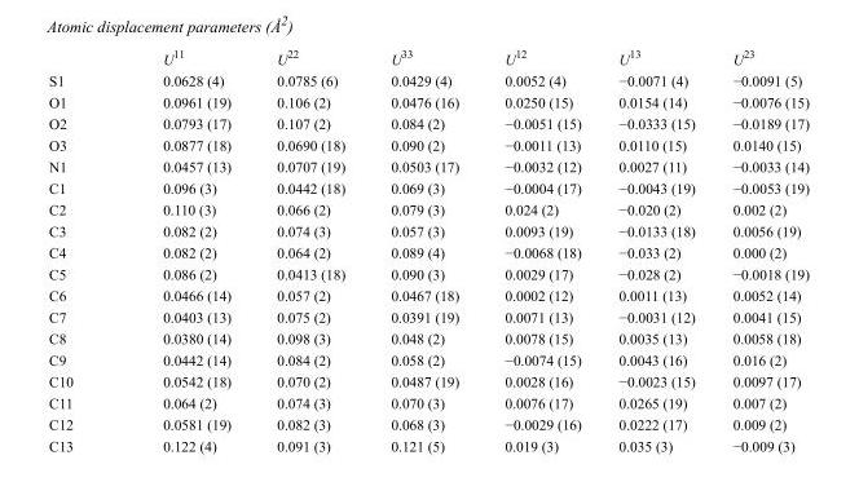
<table><thead><tr><td></td><td>U<sup>11</sup></td><td>U<sup>22</sup></td><td>U<sup>33</sup></td><td>U<sup>12</sup></td><td>U<sup>13</sup></td><td>U<sup>23</sup></td></tr></thead><tbody><tr><td>S1</td><td>0.0628 (4)</td><td>0.0785 (6)</td><td>0.0429 (4)</td><td>0.0052 (4)</td><td>−0.0071 (4)</td><td>−0.0091 (5)</td></tr><tr><td>O1</td><td>0.0961 (19)</td><td>0.106 (2)</td><td>0.0476 (16)</td><td>0.0250 (15)</td><td>0.0154 (14)</td><td>−0.0076 (15)</td></tr><tr><td>O2</td><td>0.0793 (17)</td><td>0.107 (2)</td><td>0.084 (2)</td><td>−0.0051 (15)</td><td>−0.0333 (15)</td><td>−0.0189 (17)</td></tr><tr><td>O3</td><td>0.0877 (18)</td><td>0.0690 (18)</td><td>0.090 (2)</td><td>−0.0011 (13)</td><td>0.0110 (15)</td><td>0.0140 (15)</td></tr><tr><td>N1</td><td>0.0457 (13)</td><td>0.0707 (19)</td><td>0.0503 (17)</td><td>−0.0032 (12)</td><td>0.0027 (11)</td><td>−0.0033 (14)</td></tr><tr><td>C1</td><td>0.096 (3)</td><td>0.0442 (18)</td><td>0.069 (3)</td><td>−0.0004 (17)</td><td>−0.0043 (19)</td><td>−0.0053 (19)</td></tr><tr><td>C2</td><td>0.110 (3)</td><td>0.066 (2)</td><td>0.079 (3)</td><td>0.024 (2)</td><td>−0.020 (2)</td><td>0.002 (2)</td></tr><tr><td>C3</td><td>0.082 (2)</td><td>0.074 (3)</td><td>0.057 (3)</td><td>0.0093 (19)</td><td>−0.0133 (18)</td><td>0.0056 (19)</td></tr><tr><td>C4</td><td>0.082 (2)</td><td>0.064 (2)</td><td>0.089 (4)</td><td>−0.0068 (18)</td><td>−0.033 (2)</td><td>0.000 (2)</td></tr><tr><td>C5</td><td>0.086 (2)</td><td>0.0413 (18)</td><td>0.090 (3)</td><td>0.0029 (17)</td><td>−0.028 (2)</td><td>−0.0018 (19)</td></tr><tr><td>C6</td><td>0.0466 (14)</td><td>0.057 (2)</td><td>0.0467 (18)</td><td>0.0002 (12)</td><td>0.0011 (13)</td><td>0.0052 (14)</td></tr><tr><td>C7</td><td>0.0403 (13)</td><td>0.075 (2)</td><td>0.0391 (19)</td><td>0.0071 (13)</td><td>−0.0031 (12)</td><td>0.0041 (15)</td></tr><tr><td>C8</td><td>0.0380 (14)</td><td>0.098 (3)</td><td>0.048 (2)</td><td>0.0078 (15)</td><td>0.0035 (13)</td><td>0.0058 (18)</td></tr><tr><td>C9</td><td>0.0442 (14)</td><td>0.084 (2)</td><td>0.058 (2)</td><td>−0.0074 (15)</td><td>0.0043 (16)</td><td>0.016 (2)</td></tr><tr><td>C10</td><td>0.0542 (18)</td><td>0.070 (2)</td><td>0.0487 (19)</td><td>0.0028 (16)</td><td>−0.0023 (15)</td><td>0.0097 (17)</td></tr><tr><td>C11</td><td>0.064 (2)</td><td>0.074 (3)</td><td>0.070 (3)</td><td>0.0076 (17)</td><td>0.0265 (19)</td><td>0.007 (2)</td></tr><tr><td>C12</td><td>0.0581 (19)</td><td>0.082 (3)</td><td>0.068 (3)</td><td>−0.0029 (16)</td><td>0.0222 (17)</td><td>0.009 (2)</td></tr><tr><td>C13</td><td>0.122 (4)</td><td>0.091 (3)</td><td>0.121 (5)</td><td>0.019 (3)</td><td>0.035 (3)</td><td>−0.009 (3)</td></tr></tbody></table>